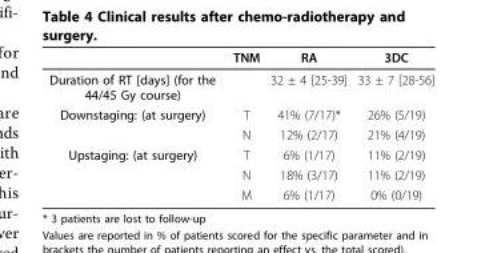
<table><thead><tr><td></td><td>TNM</td><td>RA</td><td>3DC</td></tr></thead><tbody><tr><td>Duration of RT [days] (for the 44/45 Gy course)</td><td></td><td>32 ± 4 [25-39]</td><td>33 ± 7 [28-56]</td></tr><tr><td rowspan="2">Downstaging: (at surgery)</td><td>T</td><td>41% (7/17)*</td><td>26% (5/19)</td></tr><tr><td>N</td><td>12% (2/17)</td><td>21% (4/19)</td></tr><tr><td rowspan="3">Upstaging: (at surgery)</td><td>T</td><td>6% (1/17)</td><td>11% (2/19)</td></tr><tr><td>N</td><td>18% (3/17)</td><td>11% (2/19)</td></tr><tr><td>M</td><td>6% (1/17)</td><td>0% (0/19)</td></tr></tbody></table>